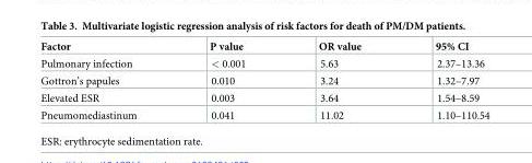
<table><thead><tr><td>Factor</td><td>P value</td><td>OR value</td><td>95% CI</td></tr></thead><tbody><tr><td>Pulmonary infection</td><td>&lt; 0.001</td><td>5.63</td><td>2.37–13.36</td></tr><tr><td>Gottron’s papules</td><td>0.010</td><td>3.24</td><td>1.32–7.97</td></tr><tr><td>Elevated ESR</td><td>0.003</td><td>3.64</td><td>1.54–8.59</td></tr><tr><td>Pneumomediastinum</td><td>0.041</td><td>11.02</td><td>1.10–110.54</td></tr></tbody></table>